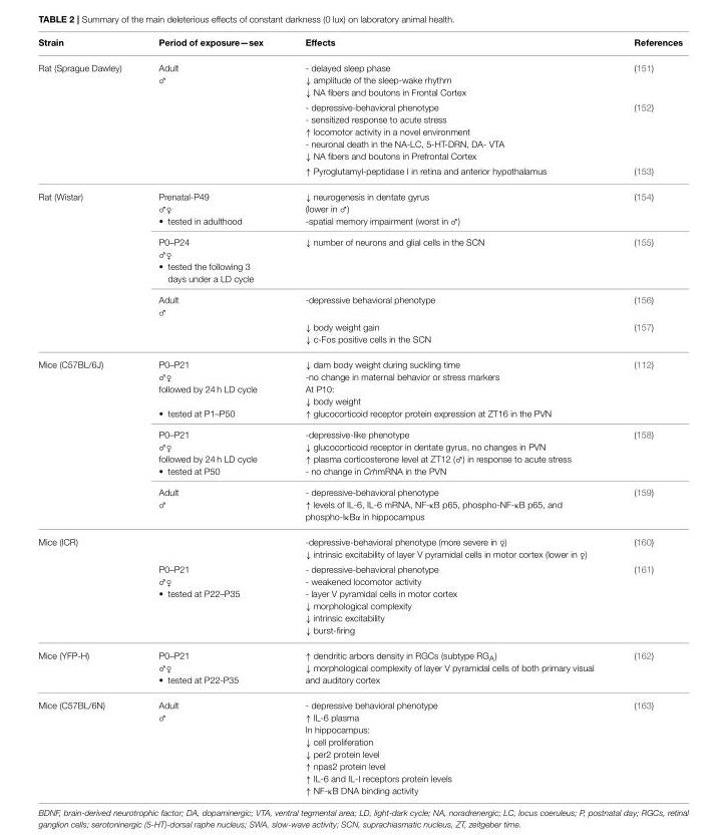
<table><thead><tr><td>Strain</td><td>Period of exposure—sex</td><td>Effects</td><td>References</td></tr></thead><tbody><tr><td rowspan="3">Rat (Sprague Dawley)</td><td>Adult ♂</td><td>- delayed sleep phase ↓ amplitude of the sleep-wake rhythm ↓ NA fibers and boutons in Frontal Cortex</td><td>(151)</td></tr><tr><td></td><td>- depressive-behavioral phenotype - sensitized response to acute stress ↑ locomotor activity in a novel environment - neuronal death in the NA-LC, 5-HT-DRN, DA- VTA ↓ NA fibers and boutons in Prefrontal Cortex</td><td>(152)</td></tr><tr><td></td><td>↑ Pyroglutamyl-peptidase I in retina and anterior hypothalamus</td><td>(153)</td></tr><tr><td rowspan="4">Rat (Wistar)</td><td>Prenatal-P49 ♂♀ • tested in adulthood</td><td>↓ neurogenesis in dentate gyrus (lower in ♂) -spatial memory impairment (worst in ♂)</td><td>(154)</td></tr><tr><td>P0–P24 ♂♀ • tested the following 3 days under a LD cycle</td><td>↓ number of neurons and glial cells in the SCN</td><td>(155)</td></tr><tr><td>Adult ♂</td><td>-depressive behavioral phenotype</td><td>(156)</td></tr><tr><td></td><td>↓ body weight gain ↓ c-Fos positive cells in the SCN</td><td>(157)</td></tr><tr><td rowspan="3">Mice (C57BL/6J)</td><td>P0–P21 ♂♀ followed by 24 h LD cycle • tested at P1–P50</td><td>↓ dam body weight during suckling time -no change in maternal behavior or stress markers At P10: ↓ body weight ↑ glucocorticoid receptor protein expression at ZT16 in the PVN</td><td>(112)</td></tr><tr><td>P0–P21 ♂♀ followed by 24 h LD cycle • tested at P50</td><td>-depressive-like phenotype ↓ glucocorticoid receptor in dentate gyrus, no changes in PVN ↑ plasma corticosterone level at ZT12 (♂) in response to acute stress - no change in CrhmRNA in the PVN</td><td>(158)</td></tr><tr><td>Adult ♂</td><td>- depressive-behavioral phenotype ↑ levels of IL-6, IL-6 mRNA, NF-κB p65, phospho-NF-κB p65, and phospho-IκBα in hippocampus</td><td>(159)</td></tr><tr><td rowspan="2">Mice (ICR)</td><td></td><td>-depressive-behavioral phenotype (more severe in ♀) ↓ intrinsic excitability of layer V pyramidal cells in motor cortex (lower in ♀)</td><td>(160)</td></tr><tr><td>P0–P21 ♂♀ • tested at P22–P35</td><td>- depressive-behavioral phenotype - weakened locomotor activity - layer V pyramidal cells in motor cortex ↓ morphological complexity ↓ intrinsic excitability ↓ burst-firing</td><td>(161)</td></tr><tr><td>Mice (YFP-H)</td><td>P0–P21 ♂♀ • tested at P22-P35</td><td>↑ dendritic arbors density in RGCs (subtype RG<sub>A</sub>) ↓ morphological complexity of layer V pyramidal cells of both primary visual and auditory cortex</td><td>(162)</td></tr><tr><td>Mice (C57BL/6N)</td><td>Adult ♂</td><td>- depressive behavioral phenotype ↑ IL-6 plasma In hippocampus: ↓ cell proliferation ↓ per2 protein level ↑ npas2 protein level ↑ IL-6 and IL-I receptors protein levels ↑ NF-κB DNA binding activity</td><td>(163)</td></tr></tbody></table>